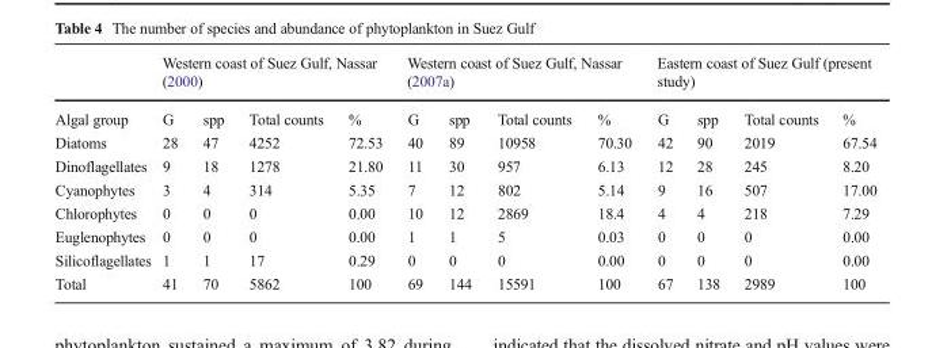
<table><thead><tr><td rowspan="2">Algal group</td><td colspan="4">Western coast of Suez Gulf, Nassar (2000)</td><td colspan="4">Western coast of Suez Gulf, Nassar (2007a)</td><td colspan="4">Eastern coast of Suez Gulf (present study)</td></tr><tr><td>G</td><td>spp</td><td>Total counts</td><td>%</td><td>G</td><td>spp</td><td>Total counts</td><td>%</td><td>G</td><td>spp</td><td>Total counts</td><td>%</td></tr></thead><tbody><tr><td>Diatoms</td><td>28</td><td>47</td><td>4252</td><td>72.53</td><td>40</td><td>89</td><td>10958</td><td>70.30</td><td>42</td><td>90</td><td>2019</td><td>67.54</td></tr><tr><td>Dinoflagellates</td><td>9</td><td>18</td><td>1278</td><td>21.80</td><td>11</td><td>30</td><td>957</td><td>6.13</td><td>12</td><td>28</td><td>245</td><td>8.20</td></tr><tr><td>Cyanophytes</td><td>3</td><td>4</td><td>314</td><td>5.35</td><td>7</td><td>12</td><td>802</td><td>5.14</td><td>9</td><td>16</td><td>507</td><td>17.00</td></tr><tr><td>Chlorophytes</td><td>0</td><td>0</td><td>0</td><td>0.00</td><td>10</td><td>12</td><td>2869</td><td>18.4</td><td>4</td><td>4</td><td>218</td><td>7.29</td></tr><tr><td>Euglenophytes</td><td>0</td><td>0</td><td>0</td><td>0.00</td><td>1</td><td>1</td><td>5</td><td>0.03</td><td>0</td><td>0</td><td>0</td><td>0.00</td></tr><tr><td>Silicoflagellates</td><td>1</td><td>1</td><td>17</td><td>0.29</td><td>0</td><td>0</td><td>0</td><td>0.00</td><td>0</td><td>0</td><td>0</td><td>0.00</td></tr><tr><td>Total</td><td>41</td><td>70</td><td>5862</td><td>100</td><td>69</td><td>144</td><td>15591</td><td>100</td><td>67</td><td>138</td><td>2989</td><td>100</td></tr></tbody></table>